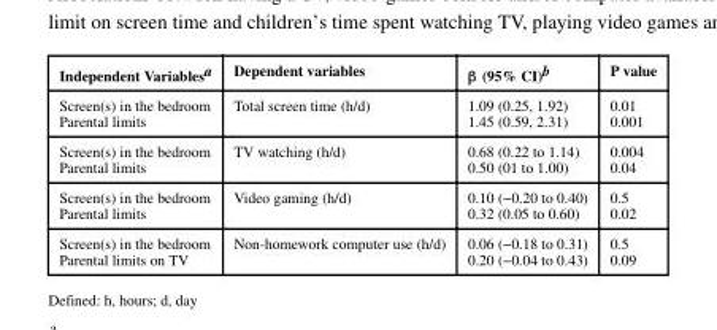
<table><thead><tr><td>Independent Variables<sup>a</sup></td><td>Dependent variables</td><td>β (95% CI)<sup>b</sup></td><td>P value</td></tr></thead><tbody><tr><td>Screen(s) in the bedroom Parental limits</td><td>Total screen time (h/d)</td><td>1.09 (0.25, 1.92) 1.45 (0.59, 2.31)</td><td>0.01 0.001</td></tr><tr><td>Screen(s) in the bedroom Parental limits</td><td>TV watching (h/d)</td><td>0.68 (0.22 to 1.14) 0.50 (01 to 1.00)</td><td>0.004 0.04</td></tr><tr><td>Screen(s) in the bedroom Parental limits</td><td>Video gaming (h/d)</td><td>0.10 (−0.20 to 0.40) 0.32 (0.05 to 0.60)</td><td>0.5 0.02</td></tr><tr><td>Screen(s) in the bedroom Parental limits on TV</td><td>Non-homework computer use (h/d)</td><td>0.06 (−0.18 to 0.31) 0.20 (−0.04 to 0.43)</td><td>0.5 0.09</td></tr></tbody></table>